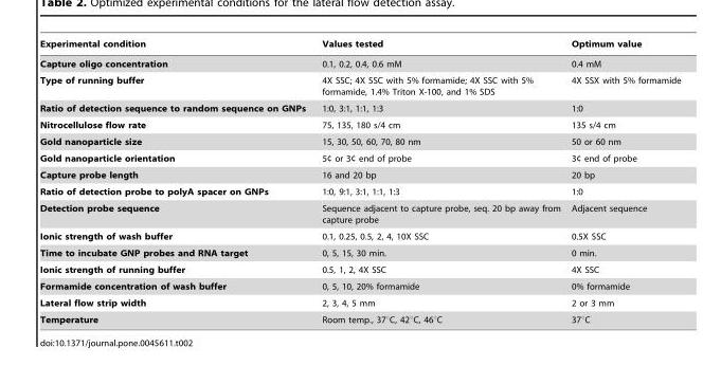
<table><thead><tr><td>Experimental condition</td><td>Values tested</td><td>Optimum value</td></tr></thead><tbody><tr><td>Capture oligo concentration</td><td>0.1, 0.2, 0.4, 0.6 mM</td><td>0.4 mM</td></tr><tr><td>Type of running buffer</td><td>4X SSC; 4X SSC with 5% formamide; 4X SSC with 5% formamide, 1.4% Triton X-100, and 1% SDS</td><td>4X SSX with 5% formamide</td></tr><tr><td>Ratio of detection sequence to random sequence on GNPs</td><td>1:0, 3:1, 1:1, 1:3</td><td>1:0</td></tr><tr><td>Nitrocellulose flow rate</td><td>75, 135, 180 s/4 cm</td><td>135 s/4 cm</td></tr><tr><td>Gold nanoparticle size</td><td>15, 30, 50, 60, 70, 80 nm</td><td>50 or 60 nm</td></tr><tr><td>Gold nanoparticle orientation</td><td>5¢ or 3¢ end of probe</td><td>3¢ end of probe</td></tr><tr><td>Capture probe length</td><td>16 and 20 bp</td><td>20 bp</td></tr><tr><td>Ratio of detection probe to polyA spacer on GNPs</td><td>1:0, 9:1, 3:1, 1:1, 1:3</td><td>1:0</td></tr><tr><td>Detection probe sequence</td><td>Sequence adjacent to capture probe, seq. 20 bp away from capture probe</td><td>Adjacent sequence</td></tr><tr><td>Ionic strength of wash buffer</td><td>0.1, 0.25, 0.5, 2, 4, 10X SSC</td><td>0.5X SSC</td></tr><tr><td>Time to incubate GNP probes and RNA target</td><td>0, 5, 15, 30 min.</td><td>0 min.</td></tr><tr><td>Ionic strength of running buffer</td><td>0.5, 1, 2, 4X SSC</td><td>4X SSC</td></tr><tr><td>Formamide concentration of wash buffer</td><td>0, 5, 10, 20% formamide</td><td>0% formamide</td></tr><tr><td>Lateral flow strip width</td><td>2, 3, 4, 5 mm</td><td>2 or 3 mm</td></tr><tr><td>Temperature</td><td>Room temp., 37°C, 42°C, 46°C</td><td>37°C</td></tr></tbody></table>